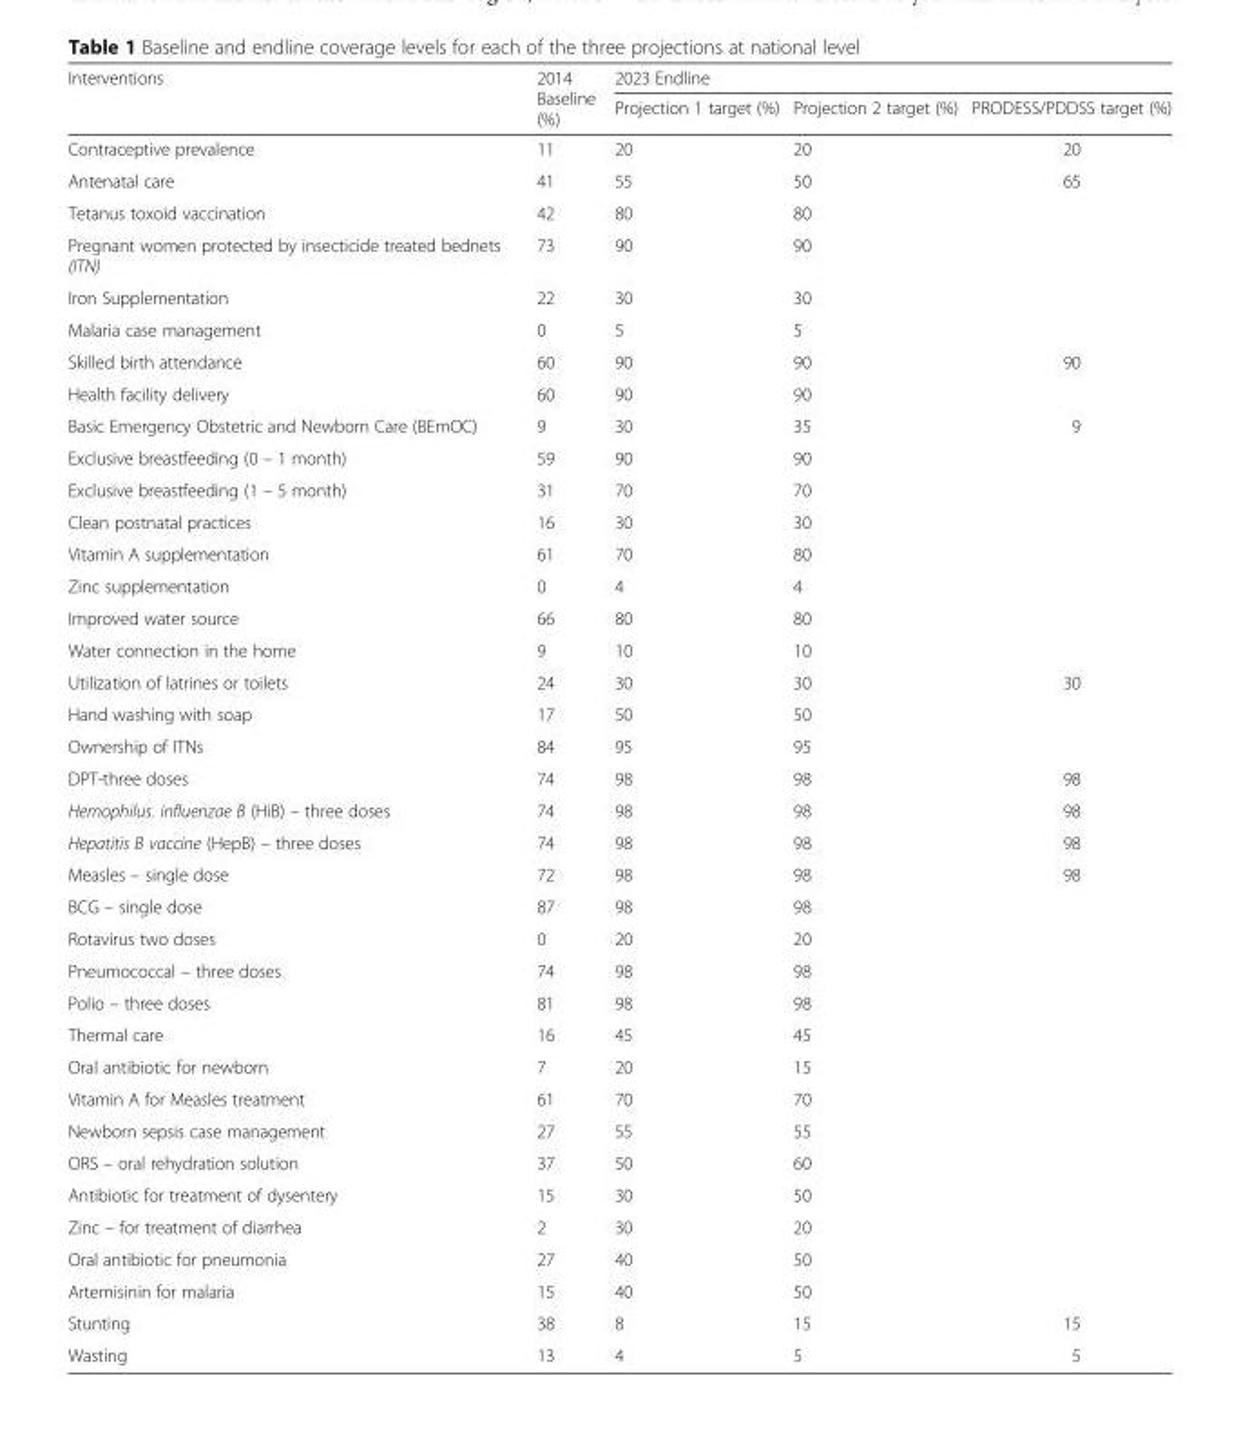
<table><thead><tr><td rowspan="2">Interventions</td><td rowspan="2">2014 Baseline (%)</td><td colspan="3">2023 Endline</td></tr><tr><td>Projection 1 target (%)</td><td>Projection 2 target (%)</td><td>PRODESS/PDDSS target (%)</td></tr></thead><tbody><tr><td>Contraceptive prevalence</td><td>11</td><td>20</td><td>20</td><td>20</td></tr><tr><td>Antenatal care</td><td>41</td><td>55</td><td>50</td><td>65</td></tr><tr><td>Tetanus toxoid vaccination</td><td>42</td><td>80</td><td>80</td><td></td></tr><tr><td>Pregnant women protected by insecticide treated bednets (ITN)</td><td>73</td><td>90</td><td>90</td><td></td></tr><tr><td>Iron Supplementation</td><td>22</td><td>30</td><td>30</td><td></td></tr><tr><td>Malaria case management</td><td>0</td><td>5</td><td>5</td><td></td></tr><tr><td>Skilled birth attendance</td><td>60</td><td>90</td><td>90</td><td>90</td></tr><tr><td>Health facility delivery</td><td>60</td><td>90</td><td>90</td><td></td></tr><tr><td>Basic Emergency Obstetric and Newborn Care (BEmOC)</td><td>9</td><td>30</td><td>35</td><td>9</td></tr><tr><td>Exclusive breastfeeding (0 – 1 month)</td><td>59</td><td>90</td><td>90</td><td></td></tr><tr><td>Exclusive breastfeeding (1 – 5 month)</td><td>31</td><td>70</td><td>70</td><td></td></tr><tr><td>Clean postnatal practices</td><td>16</td><td>30</td><td>30</td><td></td></tr><tr><td>Vitamin A supplementation</td><td>61</td><td>70</td><td>80</td><td></td></tr><tr><td>Zinc supplementation</td><td>0</td><td>4</td><td>4</td><td></td></tr><tr><td>Improved water source</td><td>66</td><td>80</td><td>80</td><td></td></tr><tr><td>Water connection in the home</td><td>9</td><td>10</td><td>10</td><td></td></tr><tr><td>Utilization of latrines or toilets</td><td>24</td><td>30</td><td>30</td><td>30</td></tr><tr><td>Hand washing with soap</td><td>17</td><td>50</td><td>50</td><td></td></tr><tr><td>Ownership of ITNs</td><td>84</td><td>95</td><td>95</td><td></td></tr><tr><td>DPT-three doses</td><td>74</td><td>98</td><td>98</td><td>98</td></tr><tr><td>Hemophilus. influenzae B (HiB) – three doses</td><td>74</td><td>98</td><td>98</td><td>98</td></tr><tr><td>Hepatitis B vaccine (HepB) – three doses</td><td>74</td><td>98</td><td>98</td><td>98</td></tr><tr><td>Measles – single dose</td><td>72</td><td>98</td><td>98</td><td>98</td></tr><tr><td>BCG – single dose</td><td>87</td><td>98</td><td>98</td><td></td></tr><tr><td>Rotavirus two doses</td><td>0</td><td>20</td><td>20</td><td></td></tr><tr><td>Pneumococcal – three doses</td><td>74</td><td>98</td><td>98</td><td></td></tr><tr><td>Polio – three doses</td><td>81</td><td>98</td><td>98</td><td></td></tr><tr><td>Thermal care</td><td>16</td><td>45</td><td>45</td><td></td></tr><tr><td>Oral antibiotic for newborn</td><td>7</td><td>20</td><td>15</td><td></td></tr><tr><td>Vitamin A for Measles treatment</td><td>61</td><td>70</td><td>70</td><td></td></tr><tr><td>Newborn sepsis case management</td><td>27</td><td>55</td><td>55</td><td></td></tr><tr><td>ORS – oral rehydration solution</td><td>37</td><td>50</td><td>60</td><td></td></tr><tr><td>Antibiotic for treatment of dysentery</td><td>15</td><td>30</td><td>50</td><td></td></tr><tr><td>Zinc – for treatment of diarrhea</td><td>2</td><td>30</td><td>20</td><td></td></tr><tr><td>Oral antibiotic for pneumonia</td><td>27</td><td>40</td><td>50</td><td></td></tr><tr><td>Artemisinin for malaria</td><td>15</td><td>40</td><td>50</td><td></td></tr><tr><td>Stunting</td><td>38</td><td>8</td><td>15</td><td>15</td></tr><tr><td>Wasting</td><td>13</td><td>4</td><td>5</td><td>5</td></tr></tbody></table>